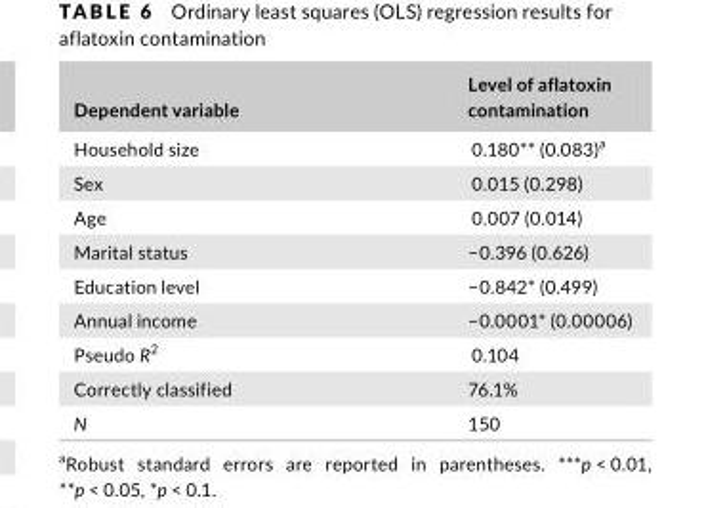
<table><thead><tr><td>Dependent variable</td><td>Level of aflatoxin contamination</td></tr></thead><tbody><tr><td>Household size</td><td>0.180** (0.083)<sup>a</sup></td></tr><tr><td>Sex</td><td>0.015 (0.298)</td></tr><tr><td>Age</td><td>0.007 (0.014)</td></tr><tr><td>Marital status</td><td>−0.396 (0.626)</td></tr><tr><td>Education level</td><td>−0.842* (0.499)</td></tr><tr><td>Annual income</td><td>−0.0001* (0.00006)</td></tr><tr><td>Pseudo R<sup>2</sup></td><td>0.104</td></tr><tr><td>Correctly classified</td><td>76.1%</td></tr><tr><td>N</td><td>150</td></tr></tbody></table>